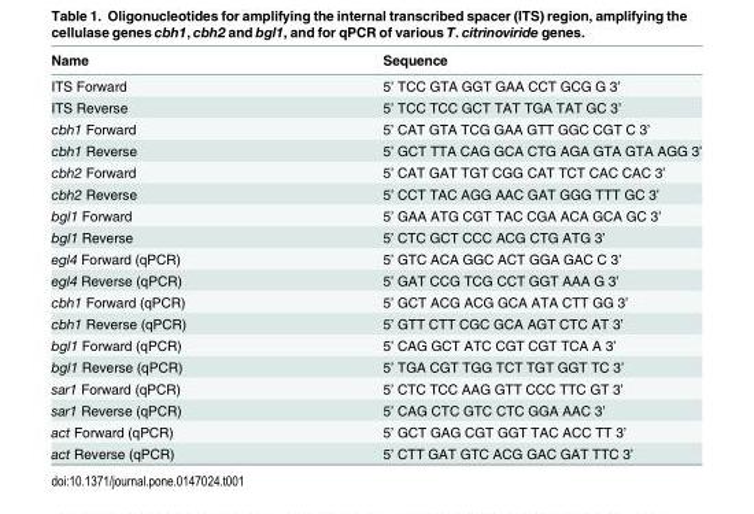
<table><thead><tr><td>Name</td><td>Sequence</td></tr></thead><tbody><tr><td>ITS Forward</td><td>5’ TCC GTA GGT GAA CCT GCG G 3’</td></tr><tr><td>ITS Reverse</td><td>5’ TCC TCC GCT TAT TGA TAT GC 3’</td></tr><tr><td>cbh1 Forward</td><td>5’ CAT GTA TCG GAA GTT GGC CGT C 3’</td></tr><tr><td>cbh1 Reverse</td><td>5’ GCT TTA CAG GCA CTG AGA GTA GTA AGG 3’</td></tr><tr><td>cbh2 Forward</td><td>5’ CAT GAT TGT CGG CAT TCT CAC CAC 3’</td></tr><tr><td>cbh2 Reverse</td><td>5’ CCT TAC AGG AAC GAT GGG TTT GC 3’</td></tr><tr><td>bgl1 Forward</td><td>5’ GAA ATG CGT TAC CGA ACA GCA GC 3’</td></tr><tr><td>bgl1 Reverse</td><td>5’ CTC GCT CCC ACG CTG ATG 3’</td></tr><tr><td>egl4 Forward (qPCR)</td><td>5’ GTC ACA GGC ACT GGA GAC C 3’</td></tr><tr><td>egl4 Reverse (qPCR)</td><td>5’ GAT CCG TCG CCT GGT AAA G 3’</td></tr><tr><td>cbh1 Forward (qPCR)</td><td>5’ GCT ACG ACG GCA ATA CTT GG 3’</td></tr><tr><td>cbh1 Reverse (qPCR)</td><td>5’ GTT CTT CGC GCA AGT CTC AT 3’</td></tr><tr><td>bgl1 Forward (qPCR)</td><td>5’ CAG GCT ATC CGT CGT TCA A 3’</td></tr><tr><td>bgl1 Reverse (qPCR)</td><td>5’ TGA CGT TGG TCT TGT GGT TC 3’</td></tr><tr><td>sar1 Forward (qPCR)</td><td>5’ CTC TCC AAG GTT CCC TTC GT 3’</td></tr><tr><td>sar1 Reverse (qPCR)</td><td>5’ CAG CTC GTC CTC GGA AAC 3’</td></tr><tr><td>act Forward (qPCR)</td><td>5’ GCT GAG CGT GGT TAC ACC TT 3’</td></tr><tr><td>act Reverse (qPCR)</td><td>5’ CTT GAT GTC ACG GAC GAT TTC 3’</td></tr></tbody></table>